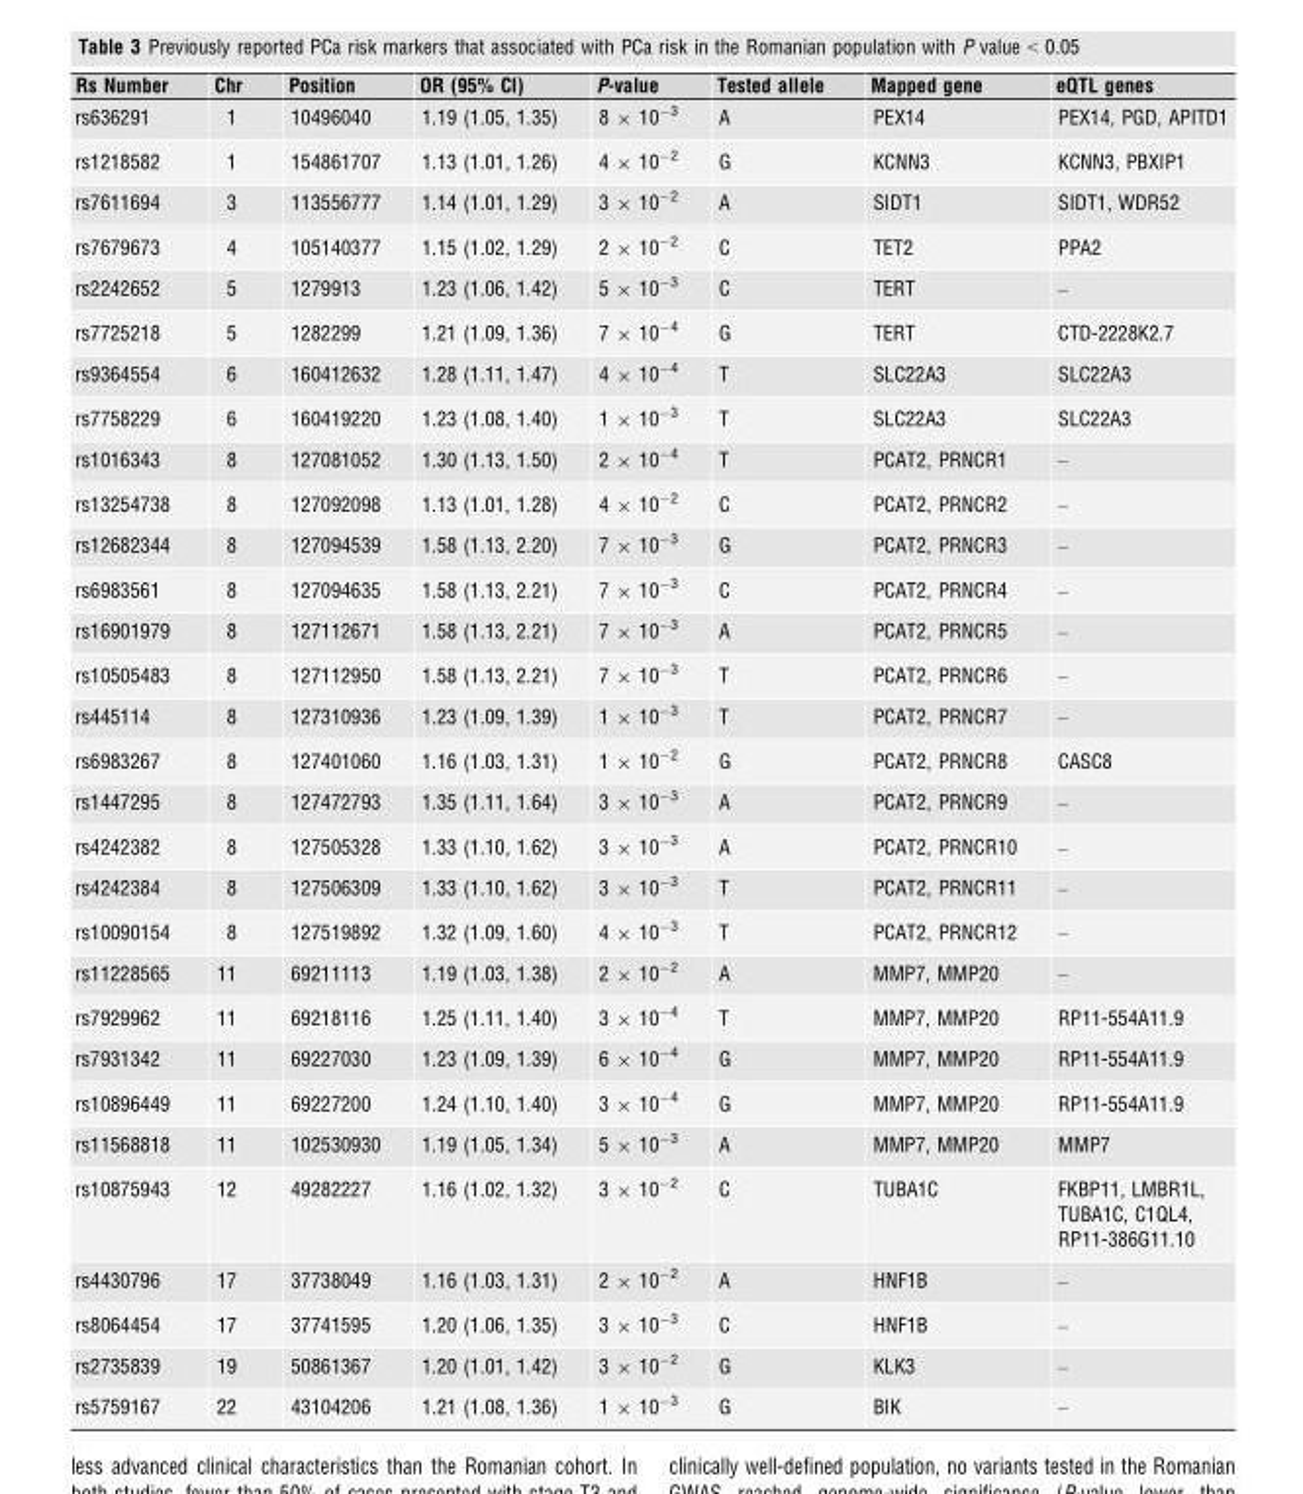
<table><thead><tr><td>Rs Number</td><td>Chr</td><td>Position</td><td>OR (95% CI)</td><td>P-value</td><td>Tested allele</td><td>Mapped gene</td><td>eQTL genes</td></tr></thead><tbody><tr><td>rs636291</td><td>1</td><td>10496040</td><td>1.19 (1.05, 1.35)</td><td>8 × 10<sup>−3</sup></td><td>A</td><td>PEX14</td><td>PEX14, PGD, APITD1</td></tr><tr><td>rs1218582</td><td>1</td><td>154861707</td><td>1.13 (1.01, 1.26)</td><td>4 × 10<sup>−2</sup></td><td>G</td><td>KCNN3</td><td>KCNN3, PBXIP1</td></tr><tr><td>rs7611694</td><td>3</td><td>113556777</td><td>1.14 (1.01, 1.29)</td><td>3 × 10<sup>−2</sup></td><td>A</td><td>SIDT1</td><td>SIDT1, WDR52</td></tr><tr><td>rs7679673</td><td>4</td><td>105140377</td><td>1.15 (1.02, 1.29)</td><td>2 × 10<sup>−2</sup></td><td>C</td><td>TET2</td><td>PPA2</td></tr><tr><td>rs2242652</td><td>5</td><td>1279913</td><td>1.23 (1.06, 1.42)</td><td>5 × 10<sup>−3</sup></td><td>C</td><td>TERT</td><td>–</td></tr><tr><td>rs7725218</td><td>5</td><td>1282299</td><td>1.21 (1.09, 1.36)</td><td>7 × 10<sup>−4</sup></td><td>G</td><td>TERT</td><td>CTD-2228K2.7</td></tr><tr><td>rs9364554</td><td>6</td><td>160412632</td><td>1.28 (1.11, 1.47)</td><td>4 × 10<sup>−4</sup></td><td>T</td><td>SLC22A3</td><td>SLC22A3</td></tr><tr><td>rs7758229</td><td>6</td><td>160419220</td><td>1.23 (1.08, 1.40)</td><td>1 × 10<sup>−3</sup></td><td>T</td><td>SLC22A3</td><td>SLC22A3</td></tr><tr><td>rs1016343</td><td>8</td><td>127081052</td><td>1.30 (1.13, 1.50)</td><td>2 × 10<sup>−4</sup></td><td>T</td><td>PCAT2, PRNCR1</td><td>–</td></tr><tr><td>rs13254738</td><td>8</td><td>127092098</td><td>1.13 (1.01, 1.28)</td><td>4 × 10<sup>−2</sup></td><td>C</td><td>PCAT2, PRNCR2</td><td>–</td></tr><tr><td>rs12682344</td><td>8</td><td>127094539</td><td>1.58 (1.13, 2.20)</td><td>7 × 10<sup>−3</sup></td><td>G</td><td>PCAT2, PRNCR3</td><td>–</td></tr><tr><td>rs6983561</td><td>8</td><td>127094635</td><td>1.58 (1.13, 2.21)</td><td>7 × 10<sup>−3</sup></td><td>C</td><td>PCAT2, PRNCR4</td><td>–</td></tr><tr><td>rs16901979</td><td>8</td><td>127112671</td><td>1.58 (1.13, 2.21)</td><td>7 × 10<sup>−3</sup></td><td>A</td><td>PCAT2, PRNCR5</td><td>–</td></tr><tr><td>rs10505483</td><td>8</td><td>127112950</td><td>1.58 (1.13, 2.21)</td><td>7 × 10<sup>−3</sup></td><td>T</td><td>PCAT2, PRNCR6</td><td>–</td></tr><tr><td>rs445114</td><td>8</td><td>127310936</td><td>1.23 (1.09, 1.39)</td><td>1 × 10<sup>−3</sup></td><td>T</td><td>PCAT2, PRNCR7</td><td>–</td></tr><tr><td>rs6983267</td><td>8</td><td>127401060</td><td>1.16 (1.03, 1.31)</td><td>1 × 10<sup>−2</sup></td><td>G</td><td>PCAT2, PRNCR8</td><td>CASC8</td></tr><tr><td>rs1447295</td><td>8</td><td>127472793</td><td>1.35 (1.11, 1.64)</td><td>3 × 10<sup>−3</sup></td><td>A</td><td>PCAT2, PRNCR9</td><td>–</td></tr><tr><td>rs4242382</td><td>8</td><td>127505328</td><td>1.33 (1.10, 1.62)</td><td>3 × 10<sup>−3</sup></td><td>A</td><td>PCAT2, PRNCR10</td><td>–</td></tr><tr><td>rs4242384</td><td>8</td><td>127506309</td><td>1.33 (1.10, 1.62)</td><td>3 × 10<sup>−3</sup></td><td>T</td><td>PCAT2, PRNCR11</td><td>–</td></tr><tr><td>rs10090154</td><td>8</td><td>127519892</td><td>1.32 (1.09, 1.60)</td><td>4 × 10<sup>−3</sup></td><td>T</td><td>PCAT2, PRNCR12</td><td>–</td></tr><tr><td>rs11228565</td><td>11</td><td>69211113</td><td>1.19 (1.03, 1.38)</td><td>2 × 10<sup>−2</sup></td><td>A</td><td>MMP7, MMP20</td><td>–</td></tr><tr><td>rs7929962</td><td>11</td><td>69218116</td><td>1.25 (1.11, 1.40)</td><td>3 × 10<sup>−4</sup></td><td>T</td><td>MMP7, MMP20</td><td>RP11-554A11.9</td></tr><tr><td>rs7931342</td><td>11</td><td>69227030</td><td>1.23 (1.09, 1.39)</td><td>6 × 10<sup>−4</sup></td><td>G</td><td>MMP7, MMP20</td><td>RP11-554A11.9</td></tr><tr><td>rs10896449</td><td>11</td><td>69227200</td><td>1.24 (1.10, 1.40)</td><td>3 × 10<sup>−4</sup></td><td>G</td><td>MMP7, MMP20</td><td>RP11-554A11.9</td></tr><tr><td>rs11568818</td><td>11</td><td>102530930</td><td>1.19 (1.05, 1.34)</td><td>5 × 10<sup>−3</sup></td><td>A</td><td>MMP7, MMP20</td><td>MMP7</td></tr><tr><td>rs10875943</td><td>12</td><td>49282227</td><td>1.16 (1.02, 1.32)</td><td>3 × 10<sup>−2</sup></td><td>C</td><td>TUBA1C</td><td>FKBP11, LMBR1L, TUBA1C, C1QL4, RP11-386G11.10</td></tr><tr><td>rs4430796</td><td>17</td><td>37738049</td><td>1.16 (1.03, 1.31)</td><td>2 × 10<sup>−2</sup></td><td>A</td><td>HNF1B</td><td>–</td></tr><tr><td>rs8064454</td><td>17</td><td>37741595</td><td>1.20 (1.06, 1.35)</td><td>3 × 10<sup>−3</sup></td><td>C</td><td>HNF1B</td><td>–</td></tr><tr><td>rs2735839</td><td>19</td><td>50861367</td><td>1.20 (1.01, 1.42)</td><td>3 × 10<sup>−2</sup></td><td>G</td><td>KLK3</td><td>–</td></tr><tr><td>rs5759167</td><td>22</td><td>43104206</td><td>1.21 (1.08, 1.36)</td><td>1 × 10<sup>−3</sup></td><td>G</td><td>BIK</td><td>–</td></tr></tbody></table>